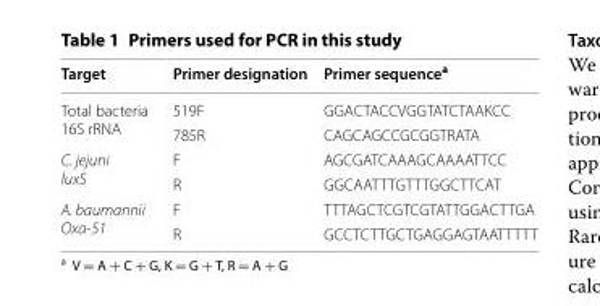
<table><thead><tr><td>Target</td><td>Primer designation</td><td>Primer sequence<sup>a</sup></td></tr></thead><tbody><tr><td rowspan="2">Total bacteria 16S rRNA</td><td>519F</td><td>GGACTACCVGGTATCTAAKCC</td></tr><tr><td>785R</td><td>CAGCAGCCGCGGTRATA</td></tr><tr><td rowspan="2">C. jejuni luxS</td><td>F</td><td>AGCGATCAAAGCAAAATTCC</td></tr><tr><td>R</td><td>GGCAATTTGTTTGGCTTCAT</td></tr><tr><td rowspan="2">A. baumannii Oxa-51</td><td>F</td><td>TTTAGCTCGTCGTATTGGACTTGA</td></tr><tr><td>R</td><td>GCCTCTTGCTGAGGAGTAATTTTT</td></tr></tbody></table>